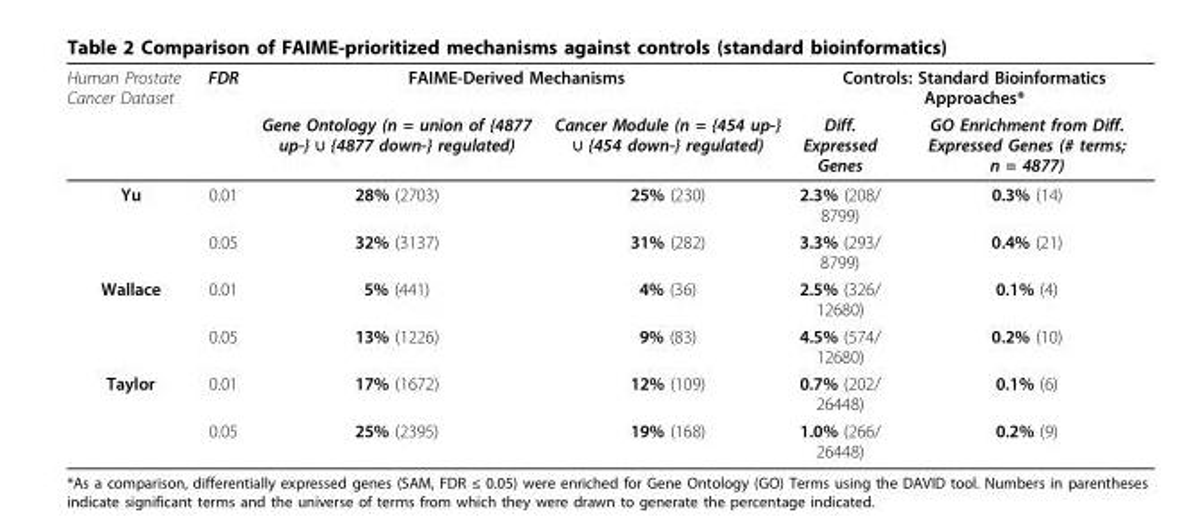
<table><thead><tr><td rowspan="2">Human Prostate Cancer Dataset</td><td rowspan="2">FDR</td><td colspan="2">FAIME-Derived Mechanisms</td><td colspan="2">Controls: Standard Bioinformatics Approaches*</td></tr><tr><td>Gene Ontology (n = union of {4877 up-} ∪ {4877 down-} regulated)</td><td>Cancer Module (n = {454 up-} ∪ {454 down-} regulated)</td><td>Diff. Expressed Genes</td><td>GO Enrichment from Diff. Expressed Genes (# terms; n = 4877)</td></tr></thead><tbody><tr><td rowspan="2">Yu</td><td>0.01</td><td>28% (2703)</td><td>25% (230)</td><td>2.3% (208/ 8799)</td><td>0.3% (14)</td></tr><tr><td>0.05</td><td>32% (3137)</td><td>31% (282)</td><td>3.3% (293/ 8799)</td><td>0.4% (21)</td></tr><tr><td rowspan="2">Wallace</td><td>0.01</td><td>5% (441)</td><td>4% (36)</td><td>2.5% (326/ 12680)</td><td>0.1% (4)</td></tr><tr><td>0.05</td><td>13% (1226)</td><td>9% (83)</td><td>4.5% (574/ 12680)</td><td>0.2% (10)</td></tr><tr><td rowspan="2">Taylor</td><td>0.01</td><td>17% (1672)</td><td>12% (109)</td><td>0.7% (202/ 26448)</td><td>0.1% (6)</td></tr><tr><td>0.05</td><td>25% (2395)</td><td>19% (168)</td><td>1.0% (266/ 26448)</td><td>0.2% (9)</td></tr></tbody></table>